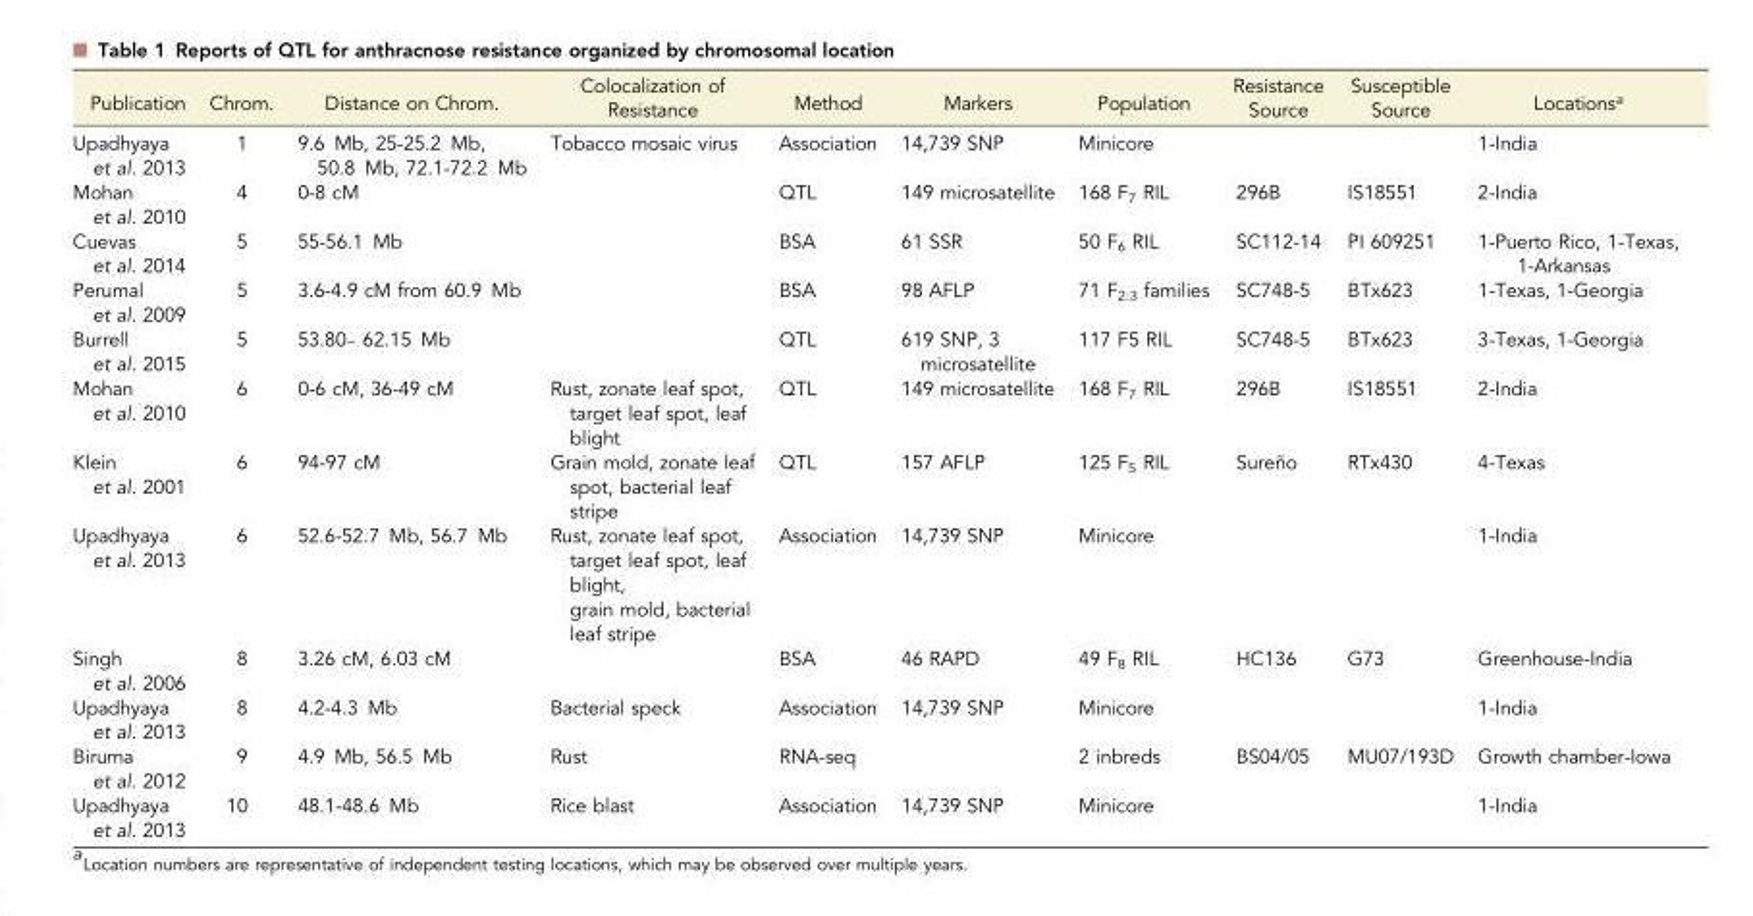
<table><thead><tr><td>Publication</td><td>Chrom.</td><td>Distance on Chrom.</td><td>Colocalization of Resistance</td><td>Method</td><td>Markers</td><td>Population</td><td>Resistance Source</td><td>Susceptible Source</td><td>Locations<sup>a</sup></td></tr></thead><tbody><tr><td>Upadhyaya et al. 2013</td><td>1</td><td>9.6 Mb, 25-25.2 Mb, 50.8 Mb, 72.1-72.2 Mb</td><td>Tobacco mosaic virus</td><td>Association</td><td>14,739 SNP</td><td>Minicore</td><td></td><td></td><td>1-India</td></tr><tr><td>Mohan et al. 2010</td><td>4</td><td>0-8 cM</td><td></td><td>QTL</td><td>149 microsatellite</td><td>168 F<sub>7</sub> RIL</td><td>296B</td><td>IS18551</td><td>2-India</td></tr><tr><td>Cuevas et al. 2014</td><td>5</td><td>55-56.1 Mb</td><td></td><td>BSA</td><td>61 SSR</td><td>50 F<sub>6</sub> RIL</td><td>SC112-14</td><td>PI 609251</td><td>1-Puerto Rico, 1-Texas, 1-Arkansas</td></tr><tr><td>Perumal et al. 2009</td><td>5</td><td>3.6-4.9 cM from 60.9 Mb</td><td></td><td>BSA</td><td>98 AFLP</td><td>71 F<sub>2:3</sub> families</td><td>SC748-5</td><td>BTx623</td><td>1-Texas, 1-Georgia</td></tr><tr><td>Burrell et al. 2015</td><td>5</td><td>53.80– 62.15 Mb</td><td></td><td>QTL</td><td>619 SNP, 3 microsatellite</td><td>117 F5 RIL</td><td>SC748-5</td><td>BTx623</td><td>3-Texas, 1-Georgia</td></tr><tr><td>Mohan et al. 2010</td><td>6</td><td>0-6 cM, 36-49 cM</td><td>Rust, zonate leaf spot, target leaf spot, leaf blight</td><td>QTL</td><td>149 microsatellite</td><td>168 F<sub>7</sub> RIL</td><td>296B</td><td>IS18551</td><td>2-India</td></tr><tr><td>Klein et al. 2001</td><td>6</td><td>94-97 cM</td><td>Grain mold, zonate leaf spot, bacterial leaf stripe</td><td>QTL</td><td>157 AFLP</td><td>125 F<sub>5</sub> RIL</td><td>Sureño</td><td>RTx430</td><td>4-Texas</td></tr><tr><td>Upadhyaya et al. 2013</td><td>6</td><td>52.6-52.7 Mb, 56.7 Mb</td><td>Rust, zonate leaf spot, target leaf spot, leaf blight, grain mold, bacterial leaf stripe</td><td>Association</td><td>14,739 SNP</td><td>Minicore</td><td></td><td></td><td>1-India</td></tr><tr><td>Singh et al. 2006</td><td>8</td><td>3.26 cM, 6.03 cM</td><td></td><td>BSA</td><td>46 RAPD</td><td>49 F<sub>8</sub> RIL</td><td>HC136</td><td>G73</td><td>Greenhouse-India</td></tr><tr><td>Upadhyaya et al. 2013</td><td>8</td><td>4.2-4.3 Mb</td><td>Bacterial speck</td><td>Association</td><td>14,739 SNP</td><td>Minicore</td><td></td><td></td><td>1-India</td></tr><tr><td>Biruma et al. 2012</td><td>9</td><td>4.9 Mb, 56.5 Mb</td><td>Rust</td><td>RNA-seq</td><td></td><td>2 inbreds</td><td>BS04/05</td><td>MU07/193D</td><td>Growth chamber-Iowa</td></tr><tr><td>Upadhyaya et al. 2013</td><td>10</td><td>48.1-48.6 Mb</td><td>Rice blast</td><td>Association</td><td>14,739 SNP</td><td>Minicore</td><td></td><td></td><td>1-India</td></tr></tbody></table>